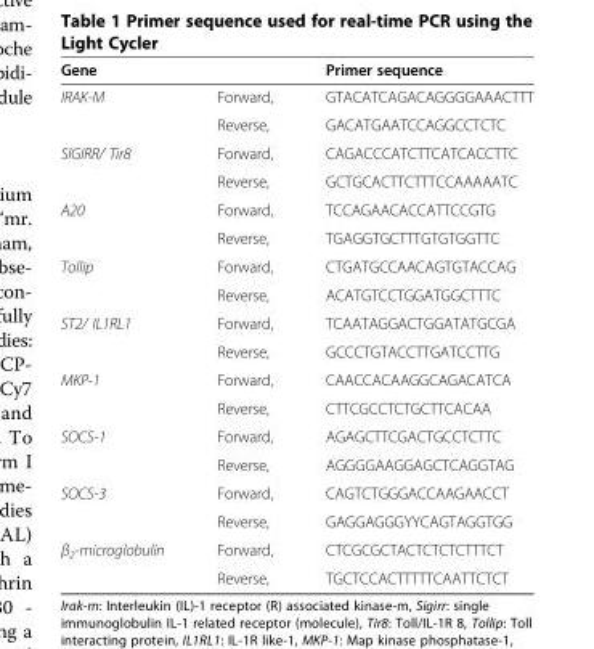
<table><thead><tr><td>Gene</td><td></td><td>Primer sequence</td></tr></thead><tbody><tr><td rowspan="2">IRAK-M</td><td>Forward,</td><td>GTACATCAGACAGGGGAAACTTT</td></tr><tr><td>Reverse,</td><td>GACATGAATCCAGGCCTCTC</td></tr><tr><td rowspan="2">SIGIRR/ Tir8</td><td>Forward,</td><td>CAGACCCATCTTCATCACCTTC</td></tr><tr><td>Reverse,</td><td>GCTGCACTTCTTTCCAAAAATC</td></tr><tr><td rowspan="2">A20</td><td>Forward,</td><td>TCCAGAACACCATTCCGTG</td></tr><tr><td>Reverse,</td><td>TGAGGTGCTTTGTGTGGTTC</td></tr><tr><td rowspan="2">Tollip</td><td>Forward,</td><td>CTGATGCCAACAGTGTACCAG</td></tr><tr><td>Reverse,</td><td>ACATGTCCTGGATGGCTTTC</td></tr><tr><td rowspan="2">ST2/ IL1RL1</td><td>Forward,</td><td>TCAATAGGACTGGATATGCGA</td></tr><tr><td>Reverse,</td><td>GCCCTGTACCTTGATCCTTG</td></tr><tr><td rowspan="2">MKP-1</td><td>Forward,</td><td>CAACCACAAGGCAGACATCA</td></tr><tr><td>Reverse,</td><td>CTTCGCCTCTGCTTCACAA</td></tr><tr><td rowspan="2">SOCS-1</td><td>Forward,</td><td>AGAGCTTCGACTGCCTCTTC</td></tr><tr><td>Reverse,</td><td>AGGGGAAGGAGCTCAGGTAG</td></tr><tr><td rowspan="2">SOCS-3</td><td>Forward,</td><td>CAGTCTGGGACCAAGAACCT</td></tr><tr><td>Reverse,</td><td>GAGGAGGGYYCAGTAGGTGG</td></tr><tr><td rowspan="2">β<sub>2</sub>-microglobulin</td><td>Forward,</td><td>CTCGCGCTACTCTCTCTTTCT</td></tr><tr><td>Reverse,</td><td>TGCTCCACTTTTTCAATTCTCT</td></tr></tbody></table>